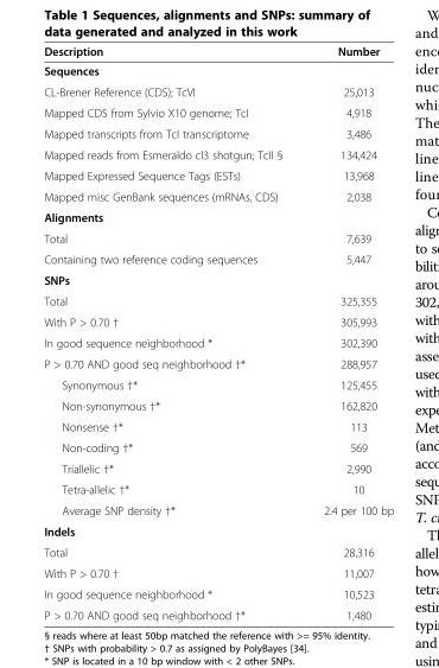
<table><thead><tr><td>Description</td><td>Number</td></tr></thead><tbody><tr><td colspan="2">Sequences</td></tr><tr><td>CL-Brener Reference (CDS); TcVI</td><td>25,013</td></tr><tr><td>Mapped CDS from Sylvio X10 genome; TcI</td><td>4,918</td></tr><tr><td>Mapped transcripts from TcI transcriptome</td><td>3,486</td></tr><tr><td>Mapped reads from Esmeraldo cl3 shotgun; TcII §</td><td>134,424</td></tr><tr><td>Mapped Expressed Sequence Tags (ESTs)</td><td>13,968</td></tr><tr><td>Mapped misc GenBank sequences (mRNAs, CDS)</td><td>2,038</td></tr><tr><td colspan="2">Alignments</td></tr><tr><td>Total</td><td>7,639</td></tr><tr><td>Containing two reference coding sequences</td><td>5,447</td></tr><tr><td colspan="2">SNPs</td></tr><tr><td>Total</td><td>325,355</td></tr><tr><td>With P &gt; 0.70 †</td><td>305,993</td></tr><tr><td>In good sequence neighborhood *</td><td>302,390</td></tr><tr><td>P &gt; 0.70 AND good seq neighborhood †*</td><td>288,957</td></tr><tr><td>Synonymous †*</td><td>125,455</td></tr><tr><td>Non-synonymous †*</td><td>162,820</td></tr><tr><td>Nonsense †*</td><td>113</td></tr><tr><td>Non-coding †*</td><td>569</td></tr><tr><td>Triallelic †*</td><td>2,990</td></tr><tr><td>Tetra-allelic †*</td><td>10</td></tr><tr><td>Average SNP density †*</td><td>2.4 per 100 bp</td></tr><tr><td colspan="2">Indels</td></tr><tr><td>Total</td><td>28,316</td></tr><tr><td>With P &gt; 0.70 †</td><td>11,007</td></tr><tr><td>In good sequence neighborhood *</td><td>10,523</td></tr><tr><td>P &gt; 0.70 AND good seq neighborhood †*</td><td>1,480</td></tr></tbody></table>